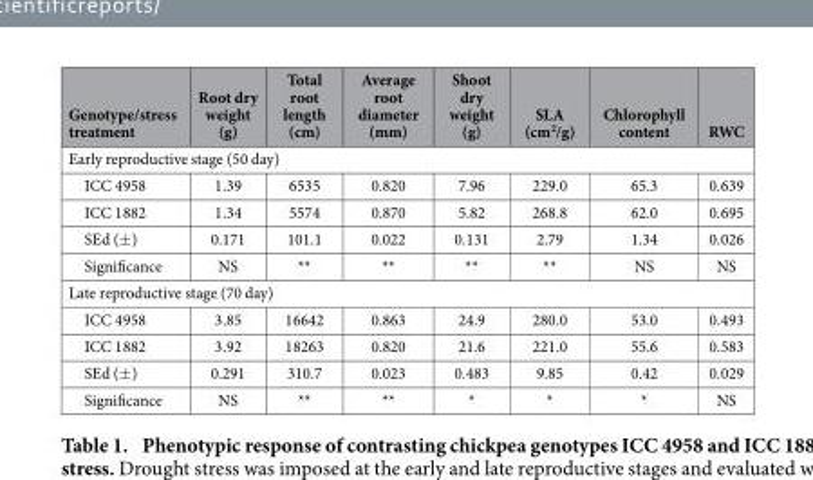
<table><thead><tr><td>Genotype/stress treatment</td><td>Root dry weight (g)</td><td>Total root length (cm)</td><td>Average root diameter (mm)</td><td>Shoot dry weight (g)</td><td>SLA (cm<sup>2</sup>/g)</td><td>Chlorophyll content</td><td>RWC</td></tr></thead><tbody><tr><td colspan="8">Early reproductive stage (50 day)</td></tr><tr><td>ICC 4958</td><td>1.39</td><td>6535</td><td>0.820</td><td>7.96</td><td>229.0</td><td>65.3</td><td>0.639</td></tr><tr><td>ICC 1882</td><td>1.34</td><td>5574</td><td>0.870</td><td>5.82</td><td>268.8</td><td>62.0</td><td>0.695</td></tr><tr><td>SEd (± )</td><td>0.171</td><td>101.1</td><td>0.022</td><td>0.131</td><td>2.79</td><td>1.34</td><td>0.026</td></tr><tr><td>Significance</td><td>NS</td><td>**</td><td>**</td><td>**</td><td>**</td><td>NS</td><td>NS</td></tr><tr><td colspan="8">Late reproductive stage (70 day)</td></tr><tr><td>ICC 4958</td><td>3.85</td><td>16642</td><td>0.863</td><td>24.9</td><td>280.0</td><td>53.0</td><td>0.493</td></tr><tr><td>ICC 1882</td><td>3.92</td><td>18263</td><td>0.820</td><td>21.6</td><td>221.0</td><td>55.6</td><td>0.583</td></tr><tr><td>SEd (± )</td><td>0.291</td><td>310.7</td><td>0.023</td><td>0.483</td><td>9.85</td><td>0.42</td><td>0.029</td></tr><tr><td>Significance</td><td>NS</td><td>**</td><td>**</td><td>*</td><td>*</td><td>*</td><td>NS</td></tr></tbody></table>